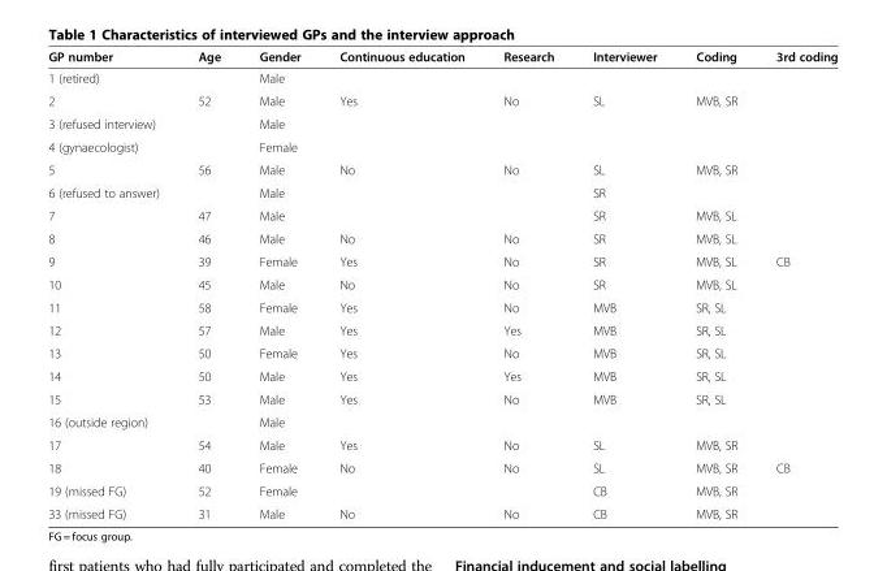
<table><thead><tr><td>GP number</td><td>Age</td><td>Gender</td><td>Continuous education</td><td>Research</td><td>Interviewer</td><td>Coding</td><td>3rd coding</td></tr></thead><tbody><tr><td>1 (retired)</td><td></td><td>Male</td><td></td><td></td><td></td><td></td><td></td></tr><tr><td>2</td><td>52</td><td>Male</td><td>Yes</td><td>No</td><td>SL</td><td>MVB, SR</td><td></td></tr><tr><td>3 (refused interview)</td><td></td><td>Male</td><td></td><td></td><td></td><td></td><td></td></tr><tr><td>4 (gynaecologist)</td><td></td><td>Female</td><td></td><td></td><td></td><td></td><td></td></tr><tr><td>5</td><td>56</td><td>Male</td><td>No</td><td>No</td><td>SL</td><td>MVB, SR</td><td></td></tr><tr><td>6 (refused to answer)</td><td></td><td>Male</td><td></td><td></td><td>SR</td><td></td><td></td></tr><tr><td>7</td><td>47</td><td>Male</td><td></td><td></td><td>SR</td><td>MVB, SL</td><td></td></tr><tr><td>8</td><td>46</td><td>Male</td><td>No</td><td>No</td><td>SR</td><td>MVB, SL</td><td></td></tr><tr><td>9</td><td>39</td><td>Female</td><td>Yes</td><td>No</td><td>SR</td><td>MVB, SL</td><td>CB</td></tr><tr><td>10</td><td>45</td><td>Male</td><td>No</td><td>No</td><td>SR</td><td>MVB, SL</td><td></td></tr><tr><td>11</td><td>58</td><td>Female</td><td>Yes</td><td>No</td><td>MVB</td><td>SR, SL</td><td></td></tr><tr><td>12</td><td>57</td><td>Male</td><td>Yes</td><td>Yes</td><td>MVB</td><td>SR, SL</td><td></td></tr><tr><td>13</td><td>50</td><td>Female</td><td>Yes</td><td>No</td><td>MVB</td><td>SR, SL</td><td></td></tr><tr><td>14</td><td>50</td><td>Male</td><td>Yes</td><td>Yes</td><td>MVB</td><td>SR, SL</td><td></td></tr><tr><td>15</td><td>53</td><td>Male</td><td>Yes</td><td>No</td><td>MVB</td><td>SR, SL</td><td></td></tr><tr><td>16 (outside region)</td><td></td><td>Male</td><td></td><td></td><td></td><td></td><td></td></tr><tr><td>17</td><td>54</td><td>Male</td><td>Yes</td><td>No</td><td>SL</td><td>MVB, SR</td><td></td></tr><tr><td>18</td><td>40</td><td>Female</td><td>No</td><td>No</td><td>SL</td><td>MVB, SR</td><td>CB</td></tr><tr><td>19 (missed FG)</td><td>52</td><td>Female</td><td></td><td></td><td>CB</td><td>MVB, SR</td><td></td></tr><tr><td>33 (missed FG)</td><td>31</td><td>Male</td><td>No</td><td>No</td><td>CB</td><td>MVB, SR</td><td></td></tr></tbody></table>